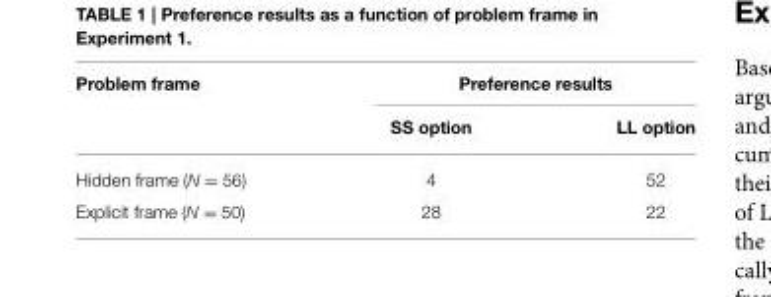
<table><thead><tr><td rowspan="2">Problem frame</td><td colspan="2">Preference results</td></tr><tr><td>SS option</td><td>LL option</td></tr></thead><tbody><tr><td>Hidden frame (N = 56)</td><td>4</td><td>52</td></tr><tr><td>Explicit frame (N = 50)</td><td>28</td><td>22</td></tr></tbody></table>